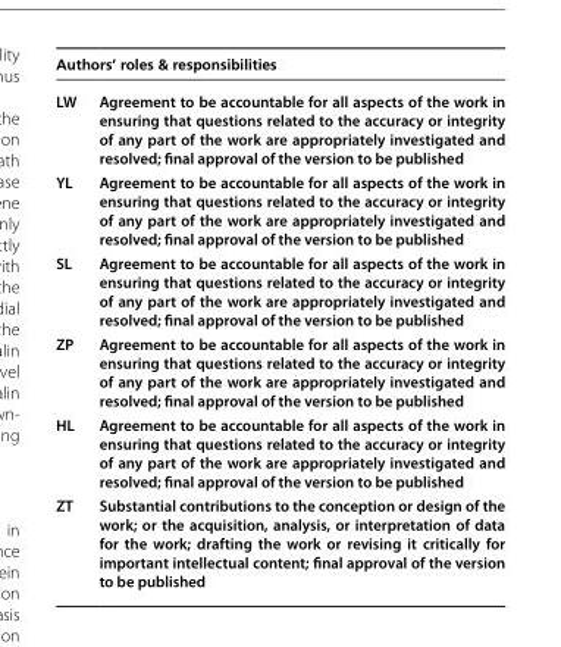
<table><thead><tr><td colspan="2">Authors’ roles &amp; responsibilities</td></tr><tr><td>LW</td><td>Agreement to be accountable for all aspects of the work in ensuring that questions related to the accuracy or integrity of any part of the work are appropriately investigated and resolved; final approval of the version to be published</td></tr></thead><tbody><tr><td>YL</td><td>Agreement to be accountable for all aspects of the work in ensuring that questions related to the accuracy or integrity of any part of the work are appropriately investigated and resolved; final approval of the version to be published</td></tr><tr><td>SL</td><td>Agreement to be accountable for all aspects of the work in ensuring that questions related to the accuracy or integrity of any part of the work are appropriately investigated and resolved; final approval of the version to be published</td></tr><tr><td>ZP</td><td>Agreement to be accountable for all aspects of the work in ensuring that questions related to the accuracy or integrity of any part of the work are appropriately investigated and resolved; final approval of the version to be published</td></tr><tr><td>HL</td><td>Agreement to be accountable for all aspects of the work in ensuring that questions related to the accuracy or integrity of any part of the work are appropriately investigated and resolved; final approval of the version to be published</td></tr><tr><td>ZT</td><td>Substantial contributions to the conception or design of the work; or the acquisition, analysis, or interpretation of data for the work; drafting the work or revising it critically for important intellectual content; final approval of the version to be published</td></tr></tbody></table>